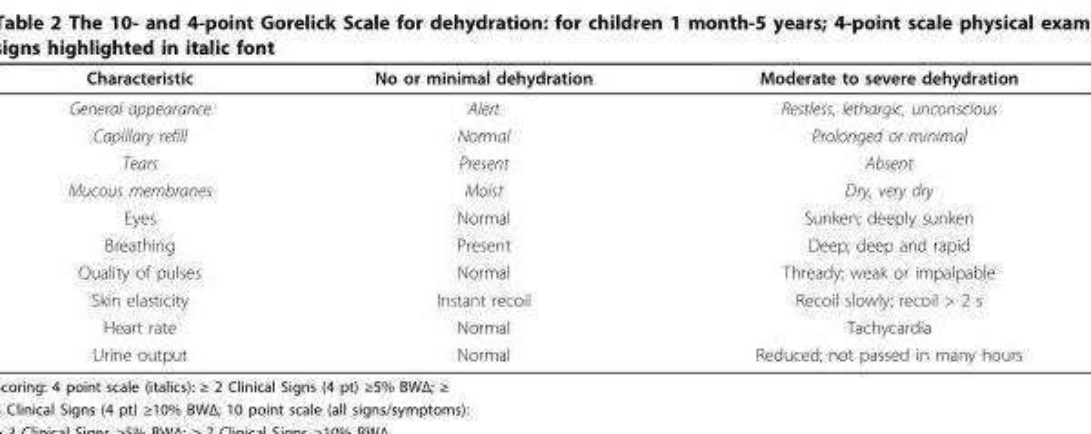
<table><thead><tr><td>Characteristic</td><td>No or minimal dehydration</td><td>Moderate to severe dehydration</td></tr></thead><tbody><tr><td>General appearance</td><td>Alert</td><td>Restless, lethargic, unconscious</td></tr><tr><td>Capillary refill</td><td>Normal</td><td>Prolonged or minimal</td></tr><tr><td>Tears</td><td>Present</td><td>Absent</td></tr><tr><td>Mucous membranes</td><td>Moist</td><td>Dry, very dry</td></tr><tr><td>Eyes</td><td>Normal</td><td>Sunken; deeply sunken</td></tr><tr><td>Breathing</td><td>Present</td><td>Deep; deep and rapid</td></tr><tr><td>Quality of pulses</td><td>Normal</td><td>Thready; weak or impalpable</td></tr><tr><td>Skin elasticity</td><td>Instant recoil</td><td>Recoil slowly; recoil &gt; 2 s</td></tr><tr><td>Heart rate</td><td>Normal</td><td>Tachycardia</td></tr><tr><td>Urine output</td><td>Normal</td><td>Reduced; not passed in many hours</td></tr></tbody></table>